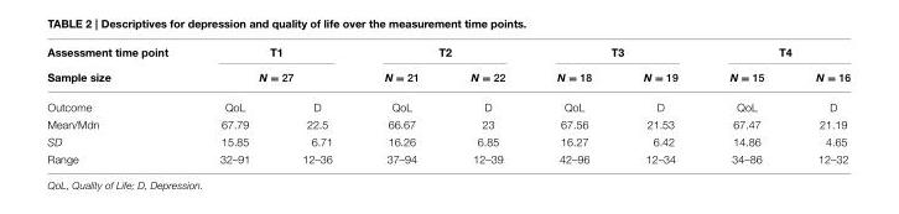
<table><thead><tr><td rowspan="3">Assessment time point Sample size Outcome</td><td rowspan="2" colspan="2">T1 N = 27</td><td colspan="2">T2</td><td colspan="2">T3</td><td colspan="2">T4</td></tr><tr><td rowspan="2">N = 21 QoL</td><td rowspan="2">N = 22 D</td><td rowspan="2">N = 18 QoL</td><td rowspan="2">N = 19 D</td><td rowspan="2">N = 15 QoL</td><td rowspan="2">N = 16 D</td></tr><tr><td>QoL</td><td>D</td></tr></thead><tbody><tr><td>Mean/Mdn</td><td>67.79</td><td>22.5</td><td>66.67</td><td>23</td><td>67.56</td><td>21.53</td><td>67.47</td><td>21.19</td></tr><tr><td>SD</td><td>15.85</td><td>6.71</td><td>16.26</td><td>6.85</td><td>16.27</td><td>6.42</td><td>14.86</td><td>4.65</td></tr><tr><td>Range</td><td>32–91</td><td>12–36</td><td>37–94</td><td>12–39</td><td>42–96</td><td>12–34</td><td>34–86</td><td>12–32</td></tr></tbody></table>